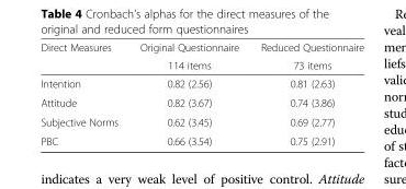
<table><thead><tr><td rowspan="2">Direct Measures</td><td rowspan="2">Original Questionnaire 114 items</td><td rowspan="2">Reduced Questionnaire 73 items</td></tr><tr></tr></thead><tbody><tr><td>Intention</td><td>0.82 (2.56)</td><td>0.81 (2.63)</td></tr><tr><td>Attitude</td><td>0.82 (3.67)</td><td>0.74 (3.86)</td></tr><tr><td>Subjective Norms</td><td>0.62 (3.45)</td><td>0.69 (2.77)</td></tr><tr><td>PBC</td><td>0.66 (3.54)</td><td>0.75 (2.91)</td></tr></tbody></table>